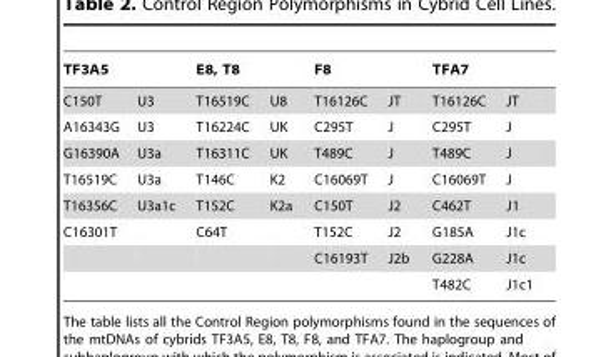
<table><thead><tr><td colspan="2">TF3A5</td><td colspan="2">E8, T8</td><td colspan="2">F8</td><td colspan="2">TFA7</td></tr><tr><td>C150T</td><td>U3</td><td>T16519C</td><td>U8</td><td>T16126C</td><td>JT</td><td>T16126C</td><td>JT</td></tr></thead><tbody><tr><td>A16343G</td><td>U3</td><td>T16224C</td><td>UK</td><td>C295T</td><td>J</td><td>C295T</td><td>J</td></tr><tr><td>G16390A</td><td>U3a</td><td>T16311C</td><td>UK</td><td>T489C</td><td>J</td><td>T489C</td><td>J</td></tr><tr><td>T16519C</td><td>U3a</td><td>T146C</td><td>K2</td><td>C16069T</td><td>J</td><td>C16069T</td><td>J</td></tr><tr><td>T16356C</td><td>U3a1c</td><td>T152C</td><td>K2a</td><td>C150T</td><td>J2</td><td>C462T</td><td>J1</td></tr><tr><td rowspan="3">C16301T</td><td></td><td>C64T</td><td></td><td>T152C</td><td>J2</td><td>G185A</td><td>J1c</td></tr><tr><td></td><td></td><td></td><td>C16193T</td><td>J2b</td><td>G228A</td><td>J1c</td></tr><tr><td></td><td></td><td></td><td></td><td></td><td>T482C</td><td>J1c1</td></tr></tbody></table>